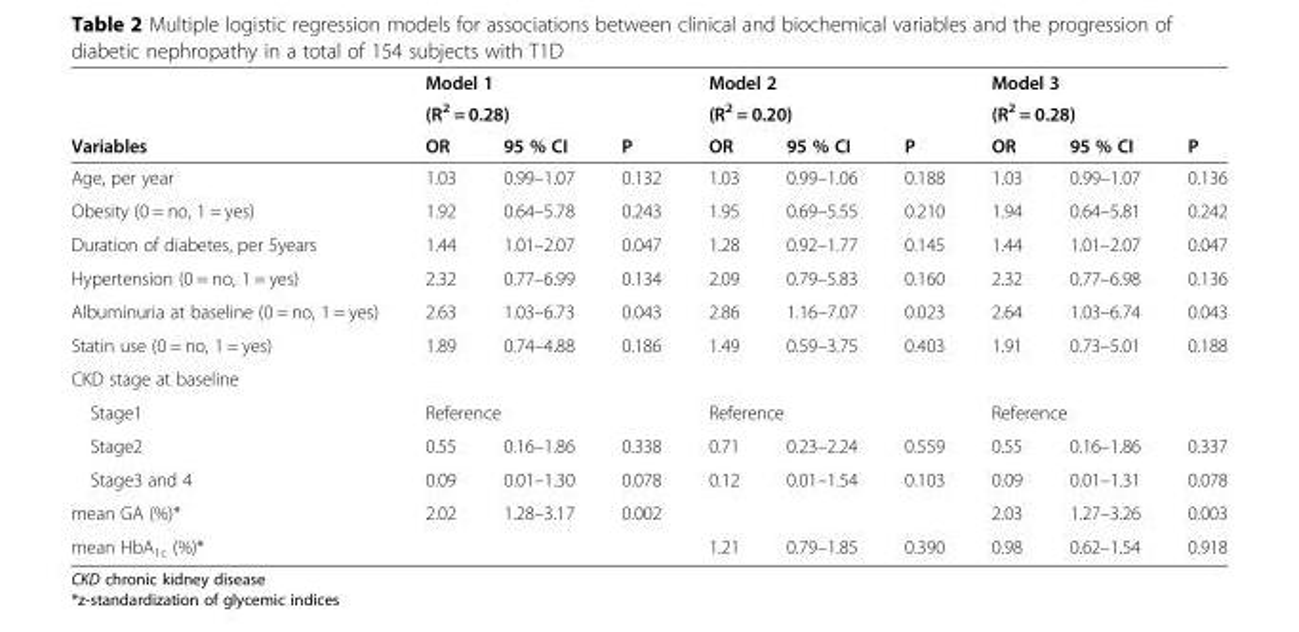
<table><thead><tr><td rowspan="3">Variables</td><td rowspan="2" colspan="3">Model 1 (R<sup>2</sup> = 0.28)</td><td rowspan="2" colspan="3">Model 2 (R<sup>2</sup> = 0.20)</td><td rowspan="2" colspan="3">Model 3 (R<sup>2</sup> = 0.28)</td></tr><tr></tr><tr><td>OR</td><td>95 % CI</td><td>P</td><td>OR</td><td>95 % CI</td><td>P</td><td>OR</td><td>95 % CI</td><td>P</td></tr></thead><tbody><tr><td>Age, per year</td><td>1.03</td><td>0.99–1.07</td><td>0.132</td><td>1.03</td><td>0.99–1.06</td><td>0.188</td><td>1.03</td><td>0.99–1.07</td><td>0.136</td></tr><tr><td>Obesity (0 = no, 1 = yes)</td><td>1.92</td><td>0.64–5.78</td><td>0.243</td><td>1.95</td><td>0.69–5.55</td><td>0.210</td><td>1.94</td><td>0.64–5.81</td><td>0.242</td></tr><tr><td>Duration of diabetes, per 5years</td><td>1.44</td><td>1.01–2.07</td><td>0.047</td><td>1.28</td><td>0.92–1.77</td><td>0.145</td><td>1.44</td><td>1.01–2.07</td><td>0.047</td></tr><tr><td>Hypertension (0 = no, 1 = yes)</td><td>2.32</td><td>0.77–6.99</td><td>0.134</td><td>2.09</td><td>0.79–5.83</td><td>0.160</td><td>2.32</td><td>0.77–6.98</td><td>0.136</td></tr><tr><td>Albuminuria at baseline (0 = no, 1 = yes)</td><td>2.63</td><td>1.03–6.73</td><td>0.043</td><td>2.86</td><td>1.16–7.07</td><td>0.023</td><td>2.64</td><td>1.03–6.74</td><td>0.043</td></tr><tr><td>Statin use (0 = no, 1 = yes)</td><td>1.89</td><td>0.74–4.88</td><td>0.186</td><td>1.49</td><td>0.59–3.75</td><td>0.403</td><td>1.91</td><td>0.73–5.01</td><td>0.188</td></tr><tr><td colspan="10">CKD stage at baseline</td></tr><tr><td>Stage1</td><td colspan="3">Reference</td><td colspan="3">Reference</td><td colspan="3">Reference</td></tr><tr><td>Stage2</td><td>0.55</td><td>0.16–1.86</td><td>0.338</td><td>0.71</td><td>0.23–2.24</td><td>0.559</td><td>0.55</td><td>0.16–1.86</td><td>0.337</td></tr><tr><td>Stage3 and 4</td><td>0.09</td><td>0.01–1.30</td><td>0.078</td><td>0.12</td><td>0.01–1.54</td><td>0.103</td><td>0.09</td><td>0.01–1.31</td><td>0.078</td></tr><tr><td>mean GA (%)*</td><td>2.02</td><td>1.28–3.17</td><td>0.002</td><td></td><td></td><td></td><td>2.03</td><td>1.27–3.26</td><td>0.003</td></tr><tr><td>mean HbA<sub>1c</sub> (%)*</td><td></td><td></td><td></td><td>1.21</td><td>0.79–1.85</td><td>0.390</td><td>0.98</td><td>0.62–1.54</td><td>0.918</td></tr></tbody></table>